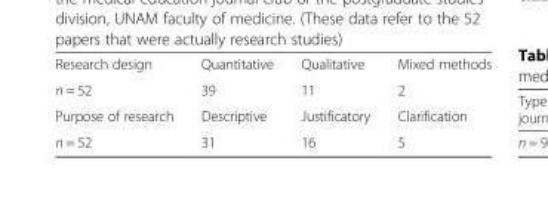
<table><tbody><tr><td>Research design</td><td>Quantitative</td><td>Qualitative</td><td>Mixed methods</td></tr><tr><td>n = 52</td><td>39</td><td>11</td><td>2</td></tr><tr><td>Purpose of research</td><td>Descriptive</td><td>Justificatory</td><td>Clarification</td></tr><tr><td>n = 52</td><td>31</td><td>16</td><td>5</td></tr></tbody></table>